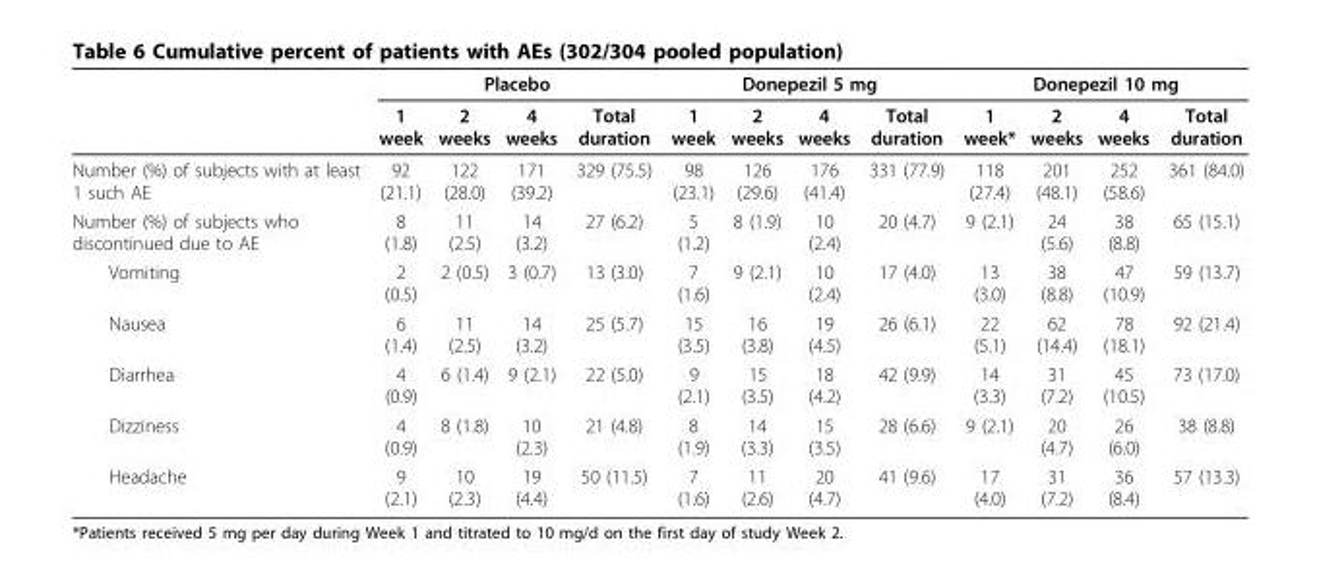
<table><thead><tr><td rowspan="2"></td><td colspan="4">Placebo</td><td colspan="4">Donepezil 5 mg</td><td colspan="4">Donepezil 10 mg</td></tr><tr><td>1 week</td><td>2 weeks</td><td>4 weeks</td><td>Total duration</td><td>1 week</td><td>2 weeks</td><td>4 weeks</td><td>Total duration</td><td>1 week*</td><td>2 weeks</td><td>4 weeks</td><td>Total duration</td></tr></thead><tbody><tr><td>Number (%) of subjects with at least 1 such AE</td><td>92 (21.1)</td><td>122 (28.0)</td><td>171 (39.2)</td><td>329 (75.5)</td><td>98 (23.1)</td><td>126 (29.6)</td><td>176 (41.4)</td><td>331 (77.9)</td><td>118 (27.4)</td><td>201 (48.1)</td><td>252 (58.6)</td><td>361 (84.0)</td></tr><tr><td>Number (%) of subjects who discontinued due to AE</td><td>8 (1.8)</td><td>11 (2.5)</td><td>14 (3.2)</td><td>27 (6.2)</td><td>5 (1.2)</td><td>8 (1.9)</td><td>10 (2.4)</td><td>20 (4.7)</td><td>9 (2.1)</td><td>24 (5.6)</td><td>38 (8.8)</td><td>65 (15.1)</td></tr><tr><td>Vomiting</td><td>2 (0.5)</td><td>2 (0.5)</td><td>3 (0.7)</td><td>13 (3.0)</td><td>7 (1.6)</td><td>9 (2.1)</td><td>10 (2.4)</td><td>17 (4.0)</td><td>13 (3.0)</td><td>38 (8.8)</td><td>47 (10.9)</td><td>59 (13.7)</td></tr><tr><td>Nausea</td><td>6 (1.4)</td><td>11 (2.5)</td><td>14 (3.2)</td><td>25 (5.7)</td><td>15 (3.5)</td><td>16 (3.8)</td><td>19 (4.5)</td><td>26 (6.1)</td><td>22 (5.1)</td><td>62 (14.4)</td><td>78 (18.1)</td><td>92 (21.4)</td></tr><tr><td>Diarrhea</td><td>4 (0.9)</td><td>6 (1.4)</td><td>9 (2.1)</td><td>22 (5.0)</td><td>9 (2.1)</td><td>15 (3.5)</td><td>18 (4.2)</td><td>42 (9.9)</td><td>14 (3.3)</td><td>31 (7.2)</td><td>45 (10.5)</td><td>73 (17.0)</td></tr><tr><td>Dizziness</td><td>4 (0.9)</td><td>8 (1.8)</td><td>10 (2.3)</td><td>21 (4.8)</td><td>8 (1.9)</td><td>14 (3.3)</td><td>15 (3.5)</td><td>28 (6.6)</td><td>9 (2.1)</td><td>20 (4.7)</td><td>26 (6.0)</td><td>38 (8.8)</td></tr><tr><td>Headache</td><td>9 (2.1)</td><td>10 (2.3)</td><td>19 (4.4)</td><td>50 (11.5)</td><td>7 (1.6)</td><td>11 (2.6)</td><td>20 (4.7)</td><td>41 (9.6)</td><td>17 (4.0)</td><td>31 (7.2)</td><td>36 (8.4)</td><td>57 (13.3)</td></tr></tbody></table>